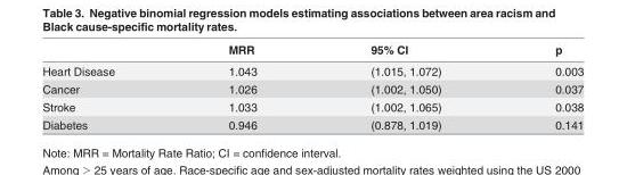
<table><thead><tr><td></td><td>MRR</td><td>95% CI</td><td>p</td></tr></thead><tbody><tr><td>Heart Disease</td><td>1.043</td><td>(1.015, 1.072)</td><td>0.003</td></tr><tr><td>Cancer</td><td>1.026</td><td>(1.002, 1.050)</td><td>0.037</td></tr><tr><td>Stroke</td><td>1.033</td><td>(1.002, 1.065)</td><td>0.038</td></tr><tr><td>Diabetes</td><td>0.946</td><td>(0.878, 1.019)</td><td>0.141</td></tr></tbody></table>